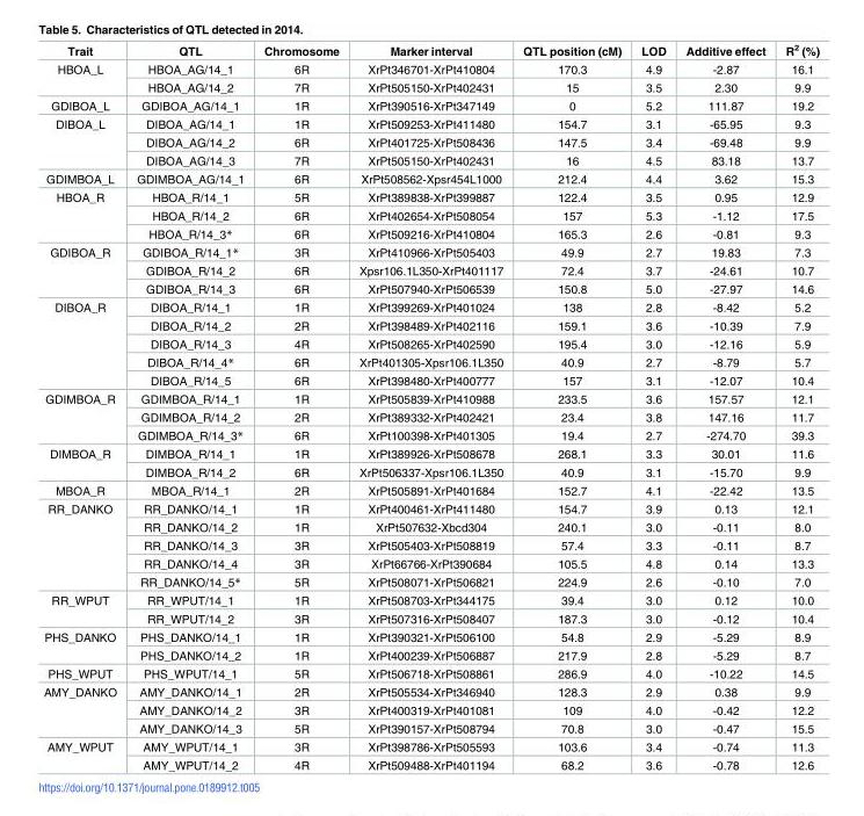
<table><thead><tr><td>Trait</td><td>QTL</td><td>Chromosome</td><td>Marker interval</td><td>QTL position (cM)</td><td>LOD</td><td>Additive effect</td><td>R<sup>2</sup> (%)</td></tr></thead><tbody><tr><td rowspan="2">HBOA_L</td><td>HBOA_AG/14_1</td><td>6R</td><td>XrPt346701-XrPt410804</td><td>170.3</td><td>4.9</td><td>-2.87</td><td>16.1</td></tr><tr><td>HBOA_AG/14_2</td><td>7R</td><td>XrPt505150-XrPt402431</td><td>15</td><td>3.5</td><td>2.30</td><td>9.9</td></tr><tr><td>GDIBOA_L</td><td>GDIBOA_AG/14_1</td><td>1R</td><td>XrPt390516-XrPt347149</td><td>0</td><td>5.2</td><td>111.87</td><td>19.2</td></tr><tr><td rowspan="3">DIBOA_L</td><td>DIBOA_AG/14_1</td><td>1R</td><td>XrPt509253-XrPt411480</td><td>154.7</td><td>3.1</td><td>-65.95</td><td>9.3</td></tr><tr><td>DIBOA_AG/14_2</td><td>6R</td><td>XrPt401725-XrPt508436</td><td>147.5</td><td>3.4</td><td>-69.48</td><td>9.9</td></tr><tr><td>DIBOA_AG/14_3</td><td>7R</td><td>XrPt505150-XrPt402431</td><td>16</td><td>4.5</td><td>83.18</td><td>13.7</td></tr><tr><td>GDIMBOA_L</td><td>GDIMBOA_AG/14_1</td><td>6R</td><td>XrPt508562-Xpsr454L1000</td><td>212.4</td><td>4.4</td><td>3.62</td><td>15.3</td></tr><tr><td rowspan="3">HBOA_R</td><td>HBOA_R/14_1</td><td>5R</td><td>XrPt389838-XrPt399887</td><td>122.4</td><td>3.5</td><td>0.95</td><td>12.9</td></tr><tr><td>HBOA_R/14_2</td><td>6R</td><td>XrPt402654-XrPt508054</td><td>157</td><td>5.3</td><td>-1.12</td><td>17.5</td></tr><tr><td>HBOA_R/14_3*</td><td>6R</td><td>XrPt509216-XrPt410804</td><td>165.3</td><td>2.6</td><td>-0.81</td><td>9.3</td></tr><tr><td rowspan="3">GDIBOA_R</td><td>GDIBOA_R/14_1*</td><td>3R</td><td>XrPt410966-XrPt505403</td><td>49.9</td><td>2.7</td><td>19.83</td><td>7.3</td></tr><tr><td>GDIBOA_R/14_2</td><td>6R</td><td>Xpsr106.1L350-XrPt401117</td><td>72.4</td><td>3.7</td><td>-24.61</td><td>10.7</td></tr><tr><td>GDIBOA_R/14_3</td><td>6R</td><td>XrPt507940-XrPt506539</td><td>150.8</td><td>5.0</td><td>-27.97</td><td>14.6</td></tr><tr><td rowspan="5">DIBOA_R</td><td>DIBOA_R/14_1</td><td>1R</td><td>XrPt399269-XrPt401024</td><td>138</td><td>2.8</td><td>-8.42</td><td>5.2</td></tr><tr><td>DIBOA_R/14_2</td><td>2R</td><td>XrPt398489-XrPt402116</td><td>159.1</td><td>3.6</td><td>-10.39</td><td>7.9</td></tr><tr><td>DIBOA_R/14_3</td><td>4R</td><td>XrPt508265-XrPt402590</td><td>195.4</td><td>3.0</td><td>-12.16</td><td>5.9</td></tr><tr><td>DIBOA_R/14_4*</td><td>6R</td><td>XrPt401305-Xpsr106.1L350</td><td>40.9</td><td>2.7</td><td>-8.79</td><td>5.7</td></tr><tr><td>DIBOA_R/14_5</td><td>6R</td><td>XrPt398480-XrPt400777</td><td>157</td><td>3.1</td><td>-12.07</td><td>10.4</td></tr><tr><td rowspan="3">GDIMBOA_R</td><td>GDIMBOA_R/14_1</td><td>1R</td><td>XrPt505839-XrPt410988</td><td>233.5</td><td>3.6</td><td>157.57</td><td>12.1</td></tr><tr><td>GDIMBOA_R/14_2</td><td>2R</td><td>XrPt389332-XrPt402421</td><td>23.4</td><td>3.8</td><td>147.16</td><td>11.7</td></tr><tr><td>GDIMBOA_R/14_3*</td><td>6R</td><td>XrPt100398-XrPt401305</td><td>19.4</td><td>2.7</td><td>-274.70</td><td>39.3</td></tr><tr><td rowspan="2">DIMBOA_R</td><td>DIMBOA_R/14_1</td><td>1R</td><td>XrPt389926-XrPt508678</td><td>268.1</td><td>3.3</td><td>30.01</td><td>11.6</td></tr><tr><td>DIMBOA_R/14_2</td><td>6R</td><td>XrPt506337-Xpsr106.1L350</td><td>40.9</td><td>3.1</td><td>-15.70</td><td>9.9</td></tr><tr><td>MBOA_R</td><td>MBOA_R/14_1</td><td>2R</td><td>XrPt505891-XrPt401684</td><td>152.7</td><td>4.1</td><td>-22.42</td><td>13.5</td></tr><tr><td rowspan="5">RR_DANKO</td><td>RR_DANKO/14_1</td><td>1R</td><td>XrPt400461-XrPt411480</td><td>154.7</td><td>3.9</td><td>0.13</td><td>12.1</td></tr><tr><td>RR_DANKO/14_2</td><td>1R</td><td>XrPt507632-Xbcd304</td><td>240.1</td><td>3.0</td><td>-0.11</td><td>8.0</td></tr><tr><td>RR_DANKO/14_3</td><td>3R</td><td>XrPt505403-XrPt508819</td><td>57.4</td><td>3.3</td><td>-0.11</td><td>8.7</td></tr><tr><td>RR_DANKO/14_4</td><td>3R</td><td>XrPt66766-XrPt390684</td><td>105.5</td><td>4.8</td><td>0.14</td><td>13.3</td></tr><tr><td>RR_DANKO/14_5*</td><td>5R</td><td>XrPt508071-XrPt506821</td><td>224.9</td><td>2.6</td><td>-0.10</td><td>7.0</td></tr><tr><td rowspan="2">RR_WPUT</td><td>RR_WPUT/14_1</td><td>1R</td><td>XrPt508703-XrPt344175</td><td>39.4</td><td>3.0</td><td>0.12</td><td>10.0</td></tr><tr><td>RR_WPUT/14_2</td><td>3R</td><td>XrPt507316-XrPt508407</td><td>187.3</td><td>3.0</td><td>-0.12</td><td>10.4</td></tr><tr><td rowspan="2">PHS_DANKO</td><td>PHS_DANKO/14_1</td><td>1R</td><td>XrPt390321-XrPt506100</td><td>54.8</td><td>2.9</td><td>-5.29</td><td>8.9</td></tr><tr><td>PHS_DANKO/14_2</td><td>1R</td><td>XrPt400239-XrPt506887</td><td>217.9</td><td>2.8</td><td>-5.29</td><td>8.7</td></tr><tr><td>PHS_WPUT</td><td>PHS_WPUT/14_1</td><td>5R</td><td>XrPt506718-XrPt508861</td><td>286.9</td><td>4.0</td><td>-10.22</td><td>14.5</td></tr><tr><td rowspan="3">AMY_DANKO</td><td>AMY_DANKO/14_1</td><td>2R</td><td>XrPt505534-XrPt346940</td><td>128.3</td><td>2.9</td><td>0.38</td><td>9.9</td></tr><tr><td>AMY_DANKO/14_2</td><td>3R</td><td>XrPt400319-XrPt401081</td><td>109</td><td>4.0</td><td>-0.42</td><td>12.2</td></tr><tr><td>AMY_DANKO/14_3</td><td>5R</td><td>XrPt390157-XrPt508794</td><td>70.8</td><td>3.0</td><td>-0.47</td><td>15.5</td></tr><tr><td rowspan="2">AMY_WPUT</td><td>AMY_WPUT/14_1</td><td>3R</td><td>XrPt398786-XrPt505593</td><td>103.6</td><td>3.4</td><td>-0.74</td><td>11.3</td></tr><tr><td>AMY_WPUT/14_2</td><td>4R</td><td>XrPt509488-XrPt401194</td><td>68.2</td><td>3.6</td><td>-0.78</td><td>12.6</td></tr></tbody></table>